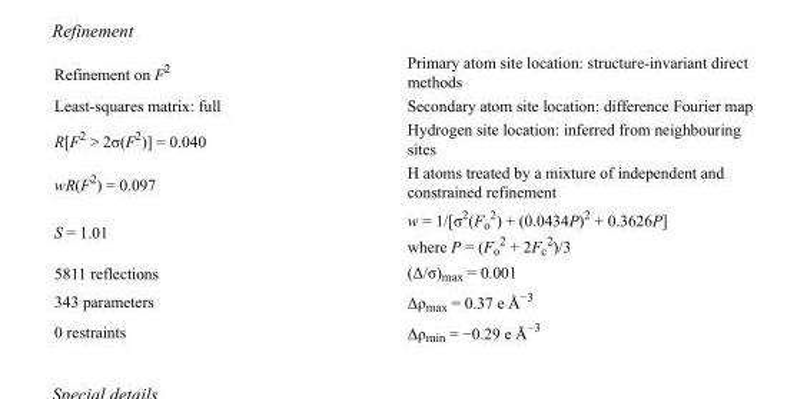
<table><tbody><tr><td>Refinement on F<sup>2</sup></td><td>Primary atom site location: structure-invariant direct methods</td></tr><tr><td>Least-squares matrix: full</td><td>Secondary atom site location: difference Fourier map</td></tr><tr><td>R[F<sup>2</sup> &gt; 2σ(F<sup>2</sup>)] = 0.040</td><td>Hydrogen site location: inferred from neighbouring sites</td></tr><tr><td>wR(F<sup>2</sup>) = 0.097</td><td>H atoms treated by a mixture of independent and constrained refinement</td></tr><tr><td>S = 1.01</td><td>w = 1/[σ<sup>2</sup>(F<sub>o</sub> <sup>2</sup>) + (0.0434P)<sup>2</sup> + 0.3626P] where P = (F<sub>o</sub> <sup>2</sup> + 2F<sub>c</sub> <sup>2</sup>)/3</td></tr><tr><td>5811 reflections</td><td>(Δ/σ)<sub>max</sub> = 0.001</td></tr><tr><td>343 parameters</td><td>Δρ<sub>max</sub> = 0.37 e Å<sup>−3</sup></td></tr><tr><td>0 restraints</td><td>Δρ<sub>min</sub> = −0.29 e Å<sup>−3</sup></td></tr></tbody></table>